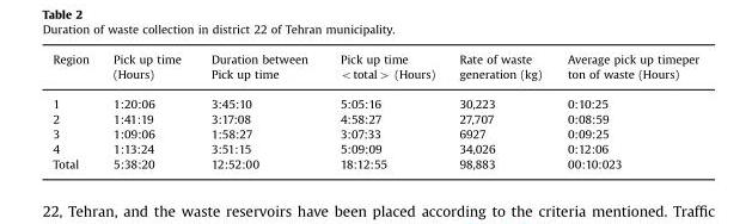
<table><thead><tr><td>Region</td><td>Pick up time (Hours)</td><td>Duration between Pick up time</td><td>Pick up time &lt;total&gt; (Hours)</td><td>Rate of waste generation (kg)</td><td>Average pick up timeper ton of waste (Hours)</td></tr></thead><tbody><tr><td>1</td><td>1:20:06</td><td>3:45:10</td><td>5:05:16</td><td>30,223</td><td>0:10:25</td></tr><tr><td>2</td><td>1:41:19</td><td>3:17:08</td><td>4:58:27</td><td>27,707</td><td>0:08:59</td></tr><tr><td>3</td><td>1:09:06</td><td>1:58:27</td><td>3:07:33</td><td>6927</td><td>0:09:25</td></tr><tr><td>4</td><td>1:13:24</td><td>3:51:15</td><td>5:09:09</td><td>34,026</td><td>0:12:06</td></tr><tr><td>Total</td><td>5:38:20</td><td>12:52:00</td><td>18:12:55</td><td>98,883</td><td>00:10:023</td></tr></tbody></table>